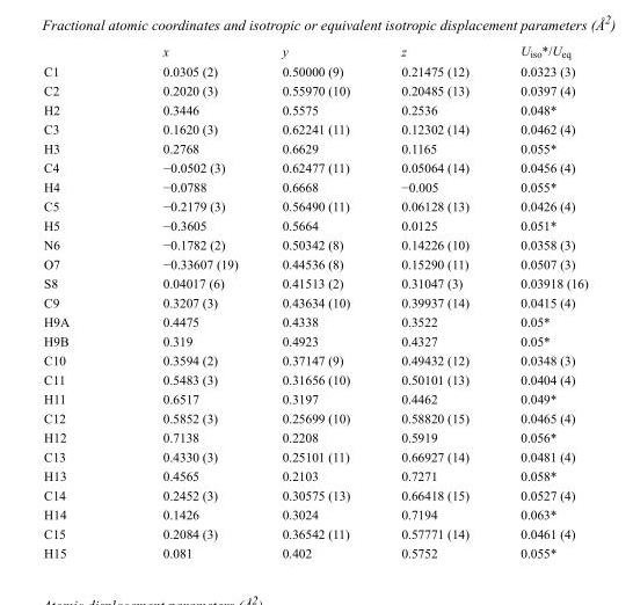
<table><thead><tr><td></td><td>x</td><td>y</td><td>z</td><td>U<sub>iso</sub>*/U<sub>eq</sub></td></tr></thead><tbody><tr><td>C1</td><td>0.0305 (2)</td><td>0.50000 (9)</td><td>0.21475 (12)</td><td>0.0323 (3)</td></tr><tr><td>C2</td><td>0.2020 (3)</td><td>0.55970 (10)</td><td>0.20485 (13)</td><td>0.0397 (4)</td></tr><tr><td>H2</td><td>0.3446</td><td>0.5575</td><td>0.2536</td><td>0.048*</td></tr><tr><td>C3</td><td>0.1620 (3)</td><td>0.62241 (11)</td><td>0.12302 (14)</td><td>0.0462 (4)</td></tr><tr><td>H3</td><td>0.2768</td><td>0.6629</td><td>0.1165</td><td>0.055*</td></tr><tr><td>C4</td><td>−0.0502 (3)</td><td>0.62477 (11)</td><td>0.05064 (14)</td><td>0.0456 (4)</td></tr><tr><td>H4</td><td>−0.0788</td><td>0.6668</td><td>−0.005</td><td>0.055*</td></tr><tr><td>C5</td><td>−0.2179 (3)</td><td>0.56490 (11)</td><td>0.06128 (13)</td><td>0.0426 (4)</td></tr><tr><td>H5</td><td>−0.3605</td><td>0.5664</td><td>0.0125</td><td>0.051*</td></tr><tr><td>N6</td><td>−0.1782 (2)</td><td>0.50342 (8)</td><td>0.14226 (10)</td><td>0.0358 (3)</td></tr><tr><td>O7</td><td>−0.33607 (19)</td><td>0.44536 (8)</td><td>0.15290 (11)</td><td>0.0507 (3)</td></tr><tr><td>S8</td><td>0.04017 (6)</td><td>0.41513 (2)</td><td>0.31047 (3)</td><td>0.03918 (16)</td></tr><tr><td>C9</td><td>0.3207 (3)</td><td>0.43634 (10)</td><td>0.39937 (14)</td><td>0.0415 (4)</td></tr><tr><td>H9A</td><td>0.4475</td><td>0.4338</td><td>0.3522</td><td>0.05*</td></tr><tr><td>H9B</td><td>0.319</td><td>0.4923</td><td>0.4327</td><td>0.05*</td></tr><tr><td>C10</td><td>0.3594 (2)</td><td>0.37147 (9)</td><td>0.49432 (12)</td><td>0.0348 (3)</td></tr><tr><td>C11</td><td>0.5483 (3)</td><td>0.31656 (10)</td><td>0.50101 (13)</td><td>0.0404 (4)</td></tr><tr><td>H11</td><td>0.6517</td><td>0.3197</td><td>0.4462</td><td>0.049*</td></tr><tr><td>C12</td><td>0.5852 (3)</td><td>0.25699 (10)</td><td>0.58820 (15)</td><td>0.0465 (4)</td></tr><tr><td>H12</td><td>0.7138</td><td>0.2208</td><td>0.5919</td><td>0.056*</td></tr><tr><td>C13</td><td>0.4330 (3)</td><td>0.25101 (11)</td><td>0.66927 (14)</td><td>0.0481 (4)</td></tr><tr><td>H13</td><td>0.4565</td><td>0.2103</td><td>0.7271</td><td>0.058*</td></tr><tr><td>C14</td><td>0.2452 (3)</td><td>0.30575 (13)</td><td>0.66418 (15)</td><td>0.0527 (4)</td></tr><tr><td>H14</td><td>0.1426</td><td>0.3024</td><td>0.7194</td><td>0.063*</td></tr><tr><td>C15</td><td>0.2084 (3)</td><td>0.36542 (11)</td><td>0.57771 (14)</td><td>0.0461 (4)</td></tr><tr><td>H15</td><td>0.081</td><td>0.402</td><td>0.5752</td><td>0.055*</td></tr></tbody></table>